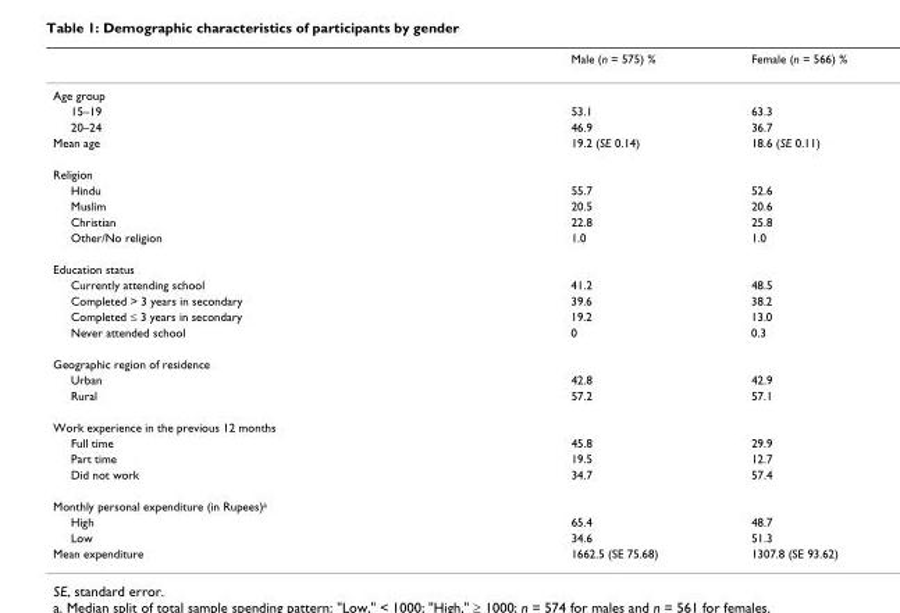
<table><thead><tr><td></td><td>Male (n = 575) %</td><td>Female (n = 566) %</td></tr></thead><tbody><tr><td colspan="3">Age group</td></tr><tr><td>15–19</td><td>53.1</td><td>63.3</td></tr><tr><td>20–24</td><td>46.9</td><td>36.7</td></tr><tr><td>Mean age</td><td>19.2 (SE 0.14)</td><td>18.6 (SE 0.11)</td></tr><tr><td colspan="3">Religion</td></tr><tr><td>Hindu</td><td>55.7</td><td>52.6</td></tr><tr><td>Muslim</td><td>20.5</td><td>20.6</td></tr><tr><td>Christian</td><td>22.8</td><td>25.8</td></tr><tr><td>Other/No religion</td><td>1.0</td><td>1.0</td></tr><tr><td colspan="3">Education status</td></tr><tr><td>Currently attending school</td><td>41.2</td><td>48.5</td></tr><tr><td>Completed &gt; 3 years in secondary</td><td>39.6</td><td>38.2</td></tr><tr><td>Completed ≤ 3 years in secondary</td><td>19.2</td><td>13.0</td></tr><tr><td>Never attended school</td><td>0</td><td>0.3</td></tr><tr><td colspan="3">Geographic region of residence</td></tr><tr><td>Urban</td><td>42.8</td><td>42.9</td></tr><tr><td>Rural</td><td>57.2</td><td>57.1</td></tr><tr><td colspan="3">Work experience in the previous 12 months</td></tr><tr><td>Full time</td><td>45.8</td><td>29.9</td></tr><tr><td>Part time</td><td>19.5</td><td>12.7</td></tr><tr><td>Did not work</td><td>34.7</td><td>57.4</td></tr><tr><td colspan="3">Monthly personal expenditure (in Rupees)<sup>a</sup></td></tr><tr><td>High</td><td>65.4</td><td>48.7</td></tr><tr><td>Low</td><td>34.6</td><td>51.3</td></tr><tr><td>Mean expenditure</td><td>1662.5 (SE 75.68)</td><td>1307.8 (SE 93.62)</td></tr></tbody></table>